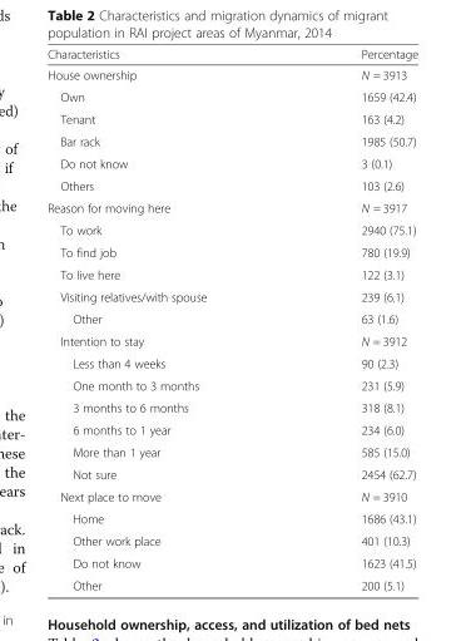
<table><thead><tr><td>Characteristics</td><td>Percentage</td></tr></thead><tbody><tr><td>House ownership</td><td>N = 3913</td></tr><tr><td>Own</td><td>1659 (42.4)</td></tr><tr><td>Tenant</td><td>163 (4.2)</td></tr><tr><td>Bar rack</td><td>1985 (50.7)</td></tr><tr><td>Do not know</td><td>3 (0.1)</td></tr><tr><td>Others</td><td>103 (2.6)</td></tr><tr><td>Reason for moving here</td><td>N = 3917</td></tr><tr><td>To work</td><td>2940 (75.1)</td></tr><tr><td>To find job</td><td>780 (19.9)</td></tr><tr><td>To live here</td><td>122 (3.1)</td></tr><tr><td>Visiting relatives/with spouse</td><td>239 (6.1)</td></tr><tr><td>Other</td><td>63 (1.6)</td></tr><tr><td>Intention to stay</td><td>N = 3912</td></tr><tr><td>Less than 4 weeks</td><td>90 (2.3)</td></tr><tr><td>One month to 3 months</td><td>231 (5.9)</td></tr><tr><td>3 months to 6 months</td><td>318 (8.1)</td></tr><tr><td>6 months to 1 year</td><td>234 (6.0)</td></tr><tr><td>More than 1 year</td><td>585 (15.0)</td></tr><tr><td>Not sure</td><td>2454 (62.7)</td></tr><tr><td>Next place to move</td><td>N = 3910</td></tr><tr><td>Home</td><td>1686 (43.1)</td></tr><tr><td>Other work place</td><td>401 (10.3)</td></tr><tr><td>Do not know</td><td>1623 (41.5)</td></tr><tr><td>Other</td><td>200 (5.1)</td></tr></tbody></table>